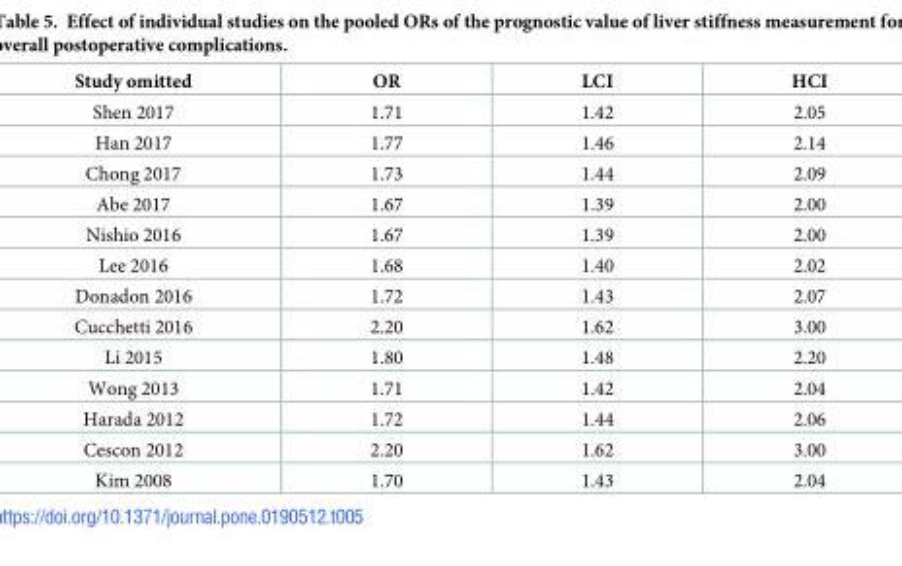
<table><thead><tr><td>Study omitted</td><td>OR</td><td>LCI</td><td>HCI</td></tr></thead><tbody><tr><td>Shen 2017</td><td>1.71</td><td>1.42</td><td>2.05</td></tr><tr><td>Han 2017</td><td>1.77</td><td>1.46</td><td>2.14</td></tr><tr><td>Chong 2017</td><td>1.73</td><td>1.44</td><td>2.09</td></tr><tr><td>Abe 2017</td><td>1.67</td><td>1.39</td><td>2.00</td></tr><tr><td>Nishio 2016</td><td>1.67</td><td>1.39</td><td>2.00</td></tr><tr><td>Lee 2016</td><td>1.68</td><td>1.40</td><td>2.02</td></tr><tr><td>Donadon 2016</td><td>1.72</td><td>1.43</td><td>2.07</td></tr><tr><td>Cucchetti 2016</td><td>2.20</td><td>1.62</td><td>3.00</td></tr><tr><td>Li 2015</td><td>1.80</td><td>1.48</td><td>2.20</td></tr><tr><td>Wong 2013</td><td>1.71</td><td>1.42</td><td>2.04</td></tr><tr><td>Harada 2012</td><td>1.72</td><td>1.44</td><td>2.06</td></tr><tr><td>Cescon 2012</td><td>2.20</td><td>1.62</td><td>3.00</td></tr><tr><td>Kim 2008</td><td>1.70</td><td>1.43</td><td>2.04</td></tr></tbody></table>